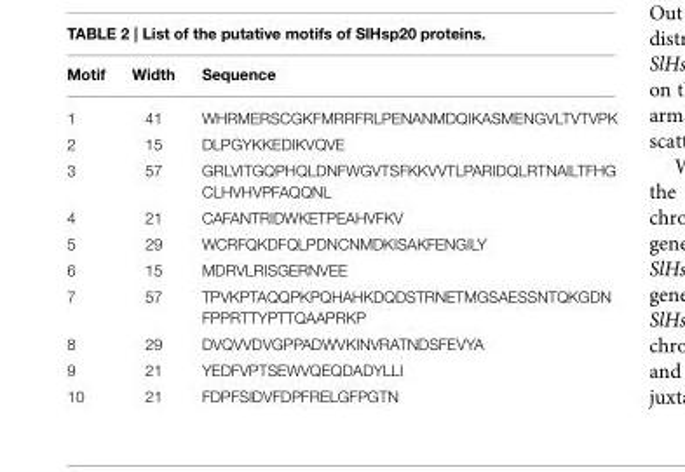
<table><thead><tr><td>Motif</td><td>Width</td><td>Sequence</td></tr></thead><tbody><tr><td>1</td><td>41</td><td>WHRMERSCGKFMRRFRLPENANMDQIKASMENGVLTVTVPK</td></tr><tr><td>2</td><td>15</td><td>DLPGYKKEDIKVQVE</td></tr><tr><td>3</td><td>57</td><td>GRLVITGQPHQLDNFWGVTSFKKVVTLPARIDQLRTNAILTFHG CLHVHVPFAQQNL</td></tr><tr><td>4</td><td>21</td><td>CAFANTRIDWKETPEAHVFKV</td></tr><tr><td>5</td><td>29</td><td>WCRFQKDFQLPDNCNMDKISAKFENGILY</td></tr><tr><td>6</td><td>15</td><td>MDRVLRISGERNVEE</td></tr><tr><td>7</td><td>57</td><td>TPVKPTAQQPKPQHAHKDQDSTRNETMGSAESSNTQKGDN FPPRTTYPTTQAAPRKP</td></tr><tr><td>8</td><td>29</td><td>DVQVVDVGPPADWVKINVRATNDSFEVYA</td></tr><tr><td>9</td><td>21</td><td>YEDFVPTSEWVQEQDADYLLI</td></tr><tr><td>10</td><td>21</td><td>FDPFSIDVFDPFRELGFPGTN</td></tr></tbody></table>